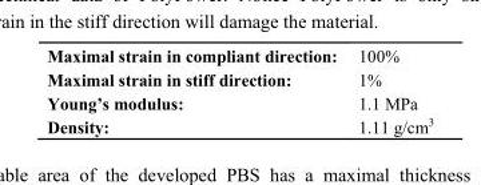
<table><tbody><tr><td>Maximal strain in compliant direction:</td><td>100%</td></tr><tr><td>Maximal strain in stiff direction:</td><td>1%</td></tr><tr><td>Young’s modulus:</td><td>1.1 MPa</td></tr><tr><td>Density:</td><td>1.11 g/cm<sup>3</sup></td></tr></tbody></table>